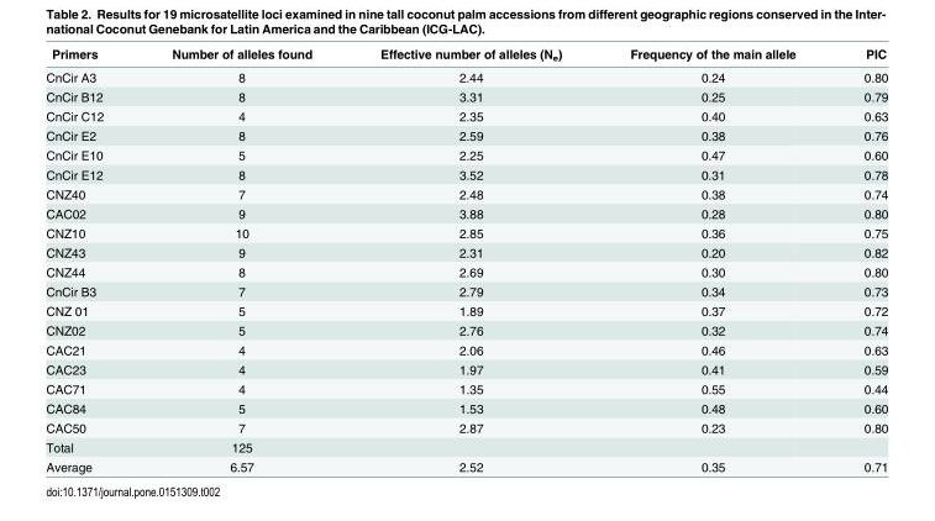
<table><thead><tr><td>Primers</td><td>Number of alleles found</td><td>Effective number of alleles (N<sub>e</sub>)</td><td>Frequency of the main allele</td><td>PIC</td></tr></thead><tbody><tr><td>CnCir A3</td><td>8</td><td>2.44</td><td>0.24</td><td>0.80</td></tr><tr><td>CnCir B12</td><td>8</td><td>3.31</td><td>0.25</td><td>0.79</td></tr><tr><td>CnCir C12</td><td>4</td><td>2.35</td><td>0.40</td><td>0.63</td></tr><tr><td>CnCir E2</td><td>8</td><td>2.59</td><td>0.38</td><td>0.76</td></tr><tr><td>CnCir E10</td><td>5</td><td>2.25</td><td>0.47</td><td>0.60</td></tr><tr><td>CnCir E12</td><td>8</td><td>3.52</td><td>0.31</td><td>0.78</td></tr><tr><td>CNZ40</td><td>7</td><td>2.48</td><td>0.38</td><td>0.74</td></tr><tr><td>CAC02</td><td>9</td><td>3.88</td><td>0.28</td><td>0.80</td></tr><tr><td>CNZ10</td><td>10</td><td>2.85</td><td>0.36</td><td>0.75</td></tr><tr><td>CNZ43</td><td>9</td><td>2.31</td><td>0.20</td><td>0.82</td></tr><tr><td>CNZ44</td><td>8</td><td>2.69</td><td>0.30</td><td>0.80</td></tr><tr><td>CnCir B3</td><td>7</td><td>2.79</td><td>0.34</td><td>0.73</td></tr><tr><td>CNZ 01</td><td>5</td><td>1.89</td><td>0.37</td><td>0.72</td></tr><tr><td>CNZ02</td><td>5</td><td>2.76</td><td>0.32</td><td>0.74</td></tr><tr><td>CAC21</td><td>4</td><td>2.06</td><td>0.46</td><td>0.63</td></tr><tr><td>CAC23</td><td>4</td><td>1.97</td><td>0.41</td><td>0.59</td></tr><tr><td>CAC71</td><td>4</td><td>1.35</td><td>0.55</td><td>0.44</td></tr><tr><td>CAC84</td><td>5</td><td>1.53</td><td>0.48</td><td>0.60</td></tr><tr><td>CAC50</td><td>7</td><td>2.87</td><td>0.23</td><td>0.80</td></tr><tr><td>Total</td><td>125</td><td></td><td></td><td></td></tr><tr><td>Average</td><td>6.57</td><td>2.52</td><td>0.35</td><td>0.71</td></tr></tbody></table>